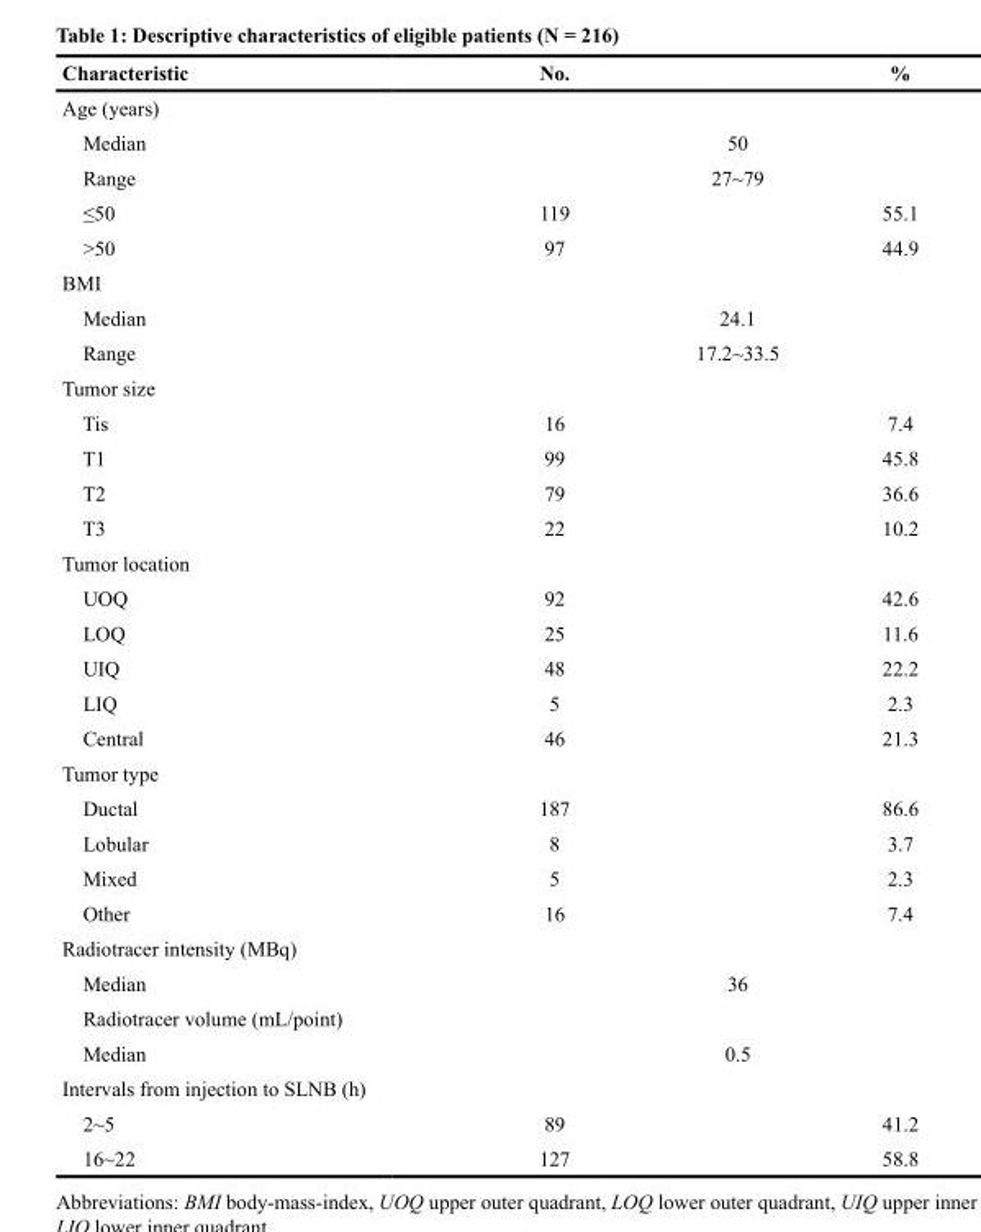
<table><thead><tr><td>Characteristic</td><td>No.</td><td></td><td>%</td></tr></thead><tbody><tr><td colspan="4">Age (years)</td></tr><tr><td>Median</td><td></td><td>50</td><td></td></tr><tr><td>Range</td><td></td><td>27~79</td><td></td></tr><tr><td>≤50</td><td>119</td><td></td><td>55.1</td></tr><tr><td>&gt;50</td><td>97</td><td></td><td>44.9</td></tr><tr><td colspan="4">BMI</td></tr><tr><td>Median</td><td></td><td>24.1</td><td></td></tr><tr><td>Range</td><td></td><td>17.2~33.5</td><td></td></tr><tr><td colspan="4">Tumor size</td></tr><tr><td>Tis</td><td>16</td><td></td><td>7.4</td></tr><tr><td>T1</td><td>99</td><td></td><td>45.8</td></tr><tr><td>T2</td><td>79</td><td></td><td>36.6</td></tr><tr><td>T3</td><td>22</td><td></td><td>10.2</td></tr><tr><td colspan="4">Tumor location</td></tr><tr><td>UOQ</td><td>92</td><td></td><td>42.6</td></tr><tr><td>LOQ</td><td>25</td><td></td><td>11.6</td></tr><tr><td>UIQ</td><td>48</td><td></td><td>22.2</td></tr><tr><td>LIQ</td><td>5</td><td></td><td>2.3</td></tr><tr><td>Central</td><td>46</td><td></td><td>21.3</td></tr><tr><td colspan="4">Tumor type</td></tr><tr><td>Ductal</td><td>187</td><td></td><td>86.6</td></tr><tr><td>Lobular</td><td>8</td><td></td><td>3.7</td></tr><tr><td>Mixed</td><td>5</td><td></td><td>2.3</td></tr><tr><td>Other</td><td>16</td><td></td><td>7.4</td></tr><tr><td colspan="4">Radiotracer intensity (MBq)</td></tr><tr><td>Median</td><td></td><td>36</td><td></td></tr><tr><td colspan="4">Radiotracer volume (mL/point)</td></tr><tr><td>Median</td><td></td><td>0.5</td><td></td></tr><tr><td colspan="4">Intervals from injection to SLNB (h)</td></tr><tr><td>2~5</td><td>89</td><td></td><td>41.2</td></tr><tr><td>16~22</td><td>127</td><td></td><td>58.8</td></tr></tbody></table>